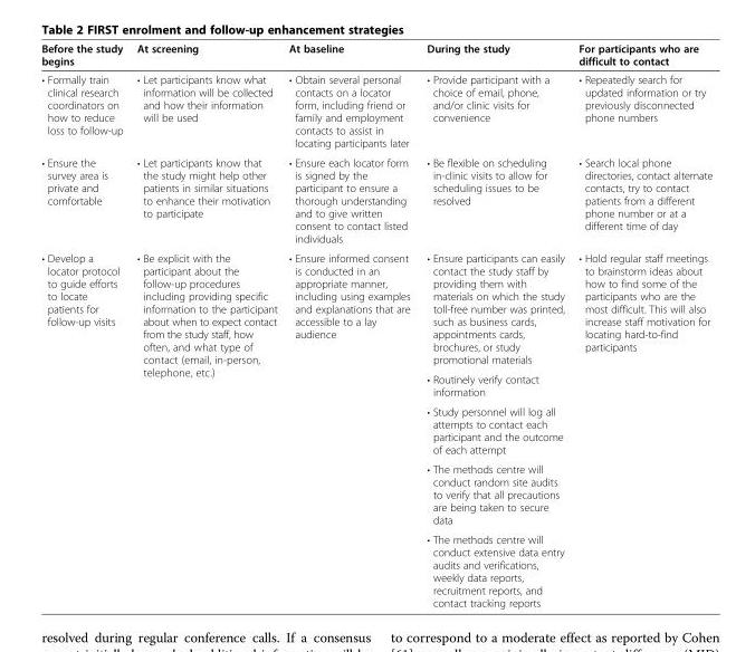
<table><thead><tr><td>Before the study begins</td><td>At screening</td><td>At baseline</td><td>During the study</td><td>For participants who are difficult to contact</td></tr></thead><tbody><tr><td>• Formally train clinical research coordinators on how to reduce loss to follow-up</td><td>• Let participants know what information will be collected and how their information will be used</td><td>• Obtain several personal contacts on a locator form, including friend or family and employment contacts to assist in locating participants later</td><td>• Provide participant with a choice of email, phone, and/or clinic visits for convenience</td><td>• Repeatedly search for updated information or try previously disconnected phone numbers</td></tr><tr><td>• Ensure the survey area is private and comfortable</td><td>• Let participants know that the study might help other patients in similar situations to enhance their motivation to participate</td><td>• Ensure each locator form is signed by the participant to ensure a thorough understanding and to give written consent to contact listed individuals</td><td>• Be flexible on scheduling in-clinic visits to allow for scheduling issues to be resolved</td><td>• Search local phone directories, contact alternate contacts, try to contact patients from a different phone number or at a different time of day</td></tr><tr><td rowspan="5">• Develop a locator protocol to guide efforts to locate patients for follow-up visits</td><td rowspan="5">• Be explicit with the participant about the follow-up procedures including providing specific information to the participant about when to expect contact from the study staff, how often, and what type of contact (email, in-person, telephone, etc.)</td><td rowspan="5">• Ensure informed consent is conducted in an appropriate manner, including using examples and explanations that are accessible to a lay audience</td><td>• Ensure participants can easily contact the study staff by providing them with materials on which the study toll-free number was printed, such as business cards, appointments cards, brochures, or study promotional materials</td><td rowspan="5">• Hold regular staff meetings to brainstorm ideas about how to find some of the participants who are the most difficult. This will also increase staff motivation for locating hard-to-find participants</td></tr><tr><td>• Routinely verify contact information</td></tr><tr><td>• Study personnel will log all attempts to contact each participant and the outcome of each attempt</td></tr><tr><td>• The methods centre will conduct random site audits to verify that all precautions are being taken to secure data</td></tr><tr><td>• The methods centre will conduct extensive data entry audits and verifications, weekly data reports, recruitment reports, and contact tracking reports</td></tr></tbody></table>